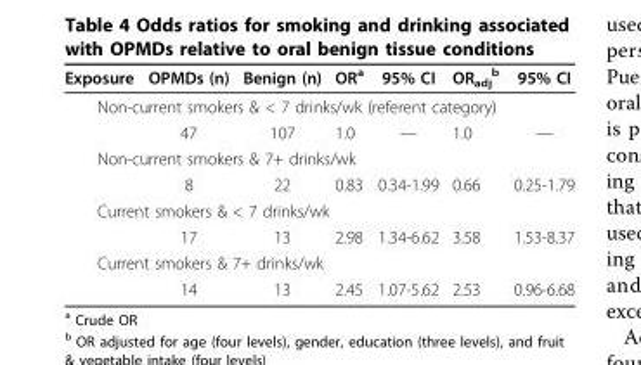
<table><thead><tr><td>Exposure</td><td>OPMDs (n)</td><td>Benign (n)</td><td>OR<sup>a</sup></td><td>95% CI</td><td>OR<sub>adj</sub> <sup>b</sup></td><td>95% CI</td></tr></thead><tbody><tr><td colspan="7">Non-current smokers &amp; &lt; 7 drinks/wk (referent category)</td></tr><tr><td></td><td>47</td><td>107</td><td>1.0</td><td>—</td><td>1.0</td><td>—</td></tr><tr><td colspan="7">Non-current smokers &amp; 7+ drinks/wk</td></tr><tr><td></td><td>8</td><td>22</td><td>0.83</td><td>0.34-1.99</td><td>0.66</td><td>0.25-1.79</td></tr><tr><td colspan="7">Current smokers &amp; &lt; 7 drinks/wk</td></tr><tr><td></td><td>17</td><td>13</td><td>2.98</td><td>1.34-6.62</td><td>3.58</td><td>1.53-8.37</td></tr><tr><td colspan="7">Current smokers &amp; 7+ drinks/wk</td></tr><tr><td></td><td>14</td><td>13</td><td>2.45</td><td>1.07-5.62</td><td>2.53</td><td>0.96-6.68</td></tr></tbody></table>